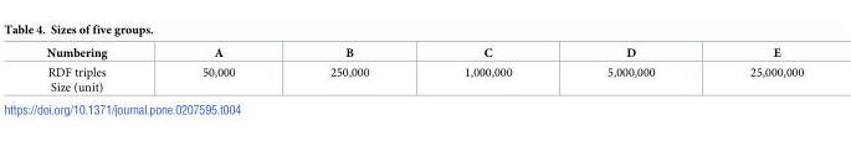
<table><thead><tr><td>Numbering</td><td>A</td><td>B</td><td>C</td><td>D</td><td>E</td></tr></thead><tbody><tr><td>RDF triples Size (unit)</td><td>50,000</td><td>250,000</td><td>1,000,000</td><td>5,000,000</td><td>25,000,000</td></tr></tbody></table>